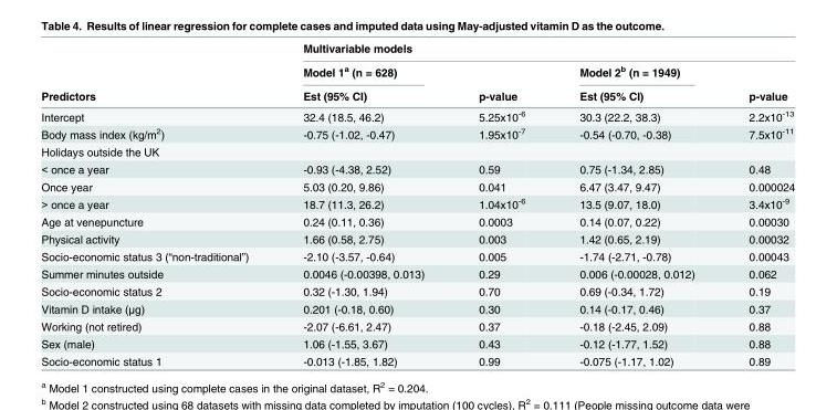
<table><thead><tr><td rowspan="3">Predictors</td><td colspan="4">Multivariable models</td></tr><tr><td rowspan="2">Model 1<sup>a</sup> (n = 628) Est (95% CI)</td><td rowspan="2">p-value</td><td rowspan="2">Model 2<sup>b</sup> (n = 1949) Est (95% CI)</td><td rowspan="2">p-value</td></tr><tr></tr></thead><tbody><tr><td>Intercept</td><td>32.4 (18.5, 46.2)</td><td>5.25x10<sup>-6</sup></td><td>30.3 (22.2, 38.3)</td><td>2.2x10<sup>-13</sup></td></tr><tr><td>Body mass index (kg/m<sup>2</sup>)</td><td>-0.75 (-1.02, -0.47)</td><td>1.95x10<sup>-7</sup></td><td>-0.54 (-0.70, -0.38)</td><td>7.5x10<sup>-11</sup></td></tr><tr><td colspan="5">Holidays outside the UK</td></tr><tr><td>&lt; once a year</td><td>-0.93 (-4.38, 2.52)</td><td>0.59</td><td>0.75 (-1.34, 2.85)</td><td>0.48</td></tr><tr><td>Once year</td><td>5.03 (0.20, 9.86)</td><td>0.041</td><td>6.47 (3.47, 9.47)</td><td>0.000024</td></tr><tr><td>&gt; once a year</td><td>18.7 (11.3, 26.2)</td><td>1.04x10<sup>-6</sup></td><td>13.5 (9.07, 18.0)</td><td>3.4x10<sup>-9</sup></td></tr><tr><td>Age at venepuncture</td><td>0.24 (0.11, 0.36)</td><td>0.0003</td><td>0.14 (0.07, 0.22)</td><td>0.00030</td></tr><tr><td>Physical activity</td><td>1.66 (0.58, 2.75)</td><td>0.003</td><td>1.42 (0.65, 2.19)</td><td>0.00032</td></tr><tr><td>Socio-economic status 3 (“non-traditional”)</td><td>-2.10 (-3.57, -0.64)</td><td>0.005</td><td>-1.74 (-2.71, -0.78)</td><td>0.00043</td></tr><tr><td>Summer minutes outside</td><td>0.0046 (-0.00398, 0.013)</td><td>0.29</td><td>0.006 (-0.00028, 0.012)</td><td>0.062</td></tr><tr><td>Socio-economic status 2</td><td>0.32 (-1.30, 1.94)</td><td>0.70</td><td>0.69 (-0.34, 1.72)</td><td>0.19</td></tr><tr><td>Vitamin D intake (μg)</td><td>0.201 (-0.18, 0.60)</td><td>0.30</td><td>0.14 (-0.17, 0.46)</td><td>0.37</td></tr><tr><td>Working (not retired)</td><td>-2.07 (-6.61, 2.47)</td><td>0.37</td><td>-0.18 (-2.45, 2.09)</td><td>0.88</td></tr><tr><td>Sex (male)</td><td>1.06 (-1.55, 3.67)</td><td>0.43</td><td>-0.12 (-1.77, 1.52)</td><td>0.88</td></tr><tr><td>Socio-economic status 1</td><td>-0.013 (-1.85, 1.82)</td><td>0.99</td><td>-0.075 (-1.17, 1.02)</td><td>0.89</td></tr></tbody></table>